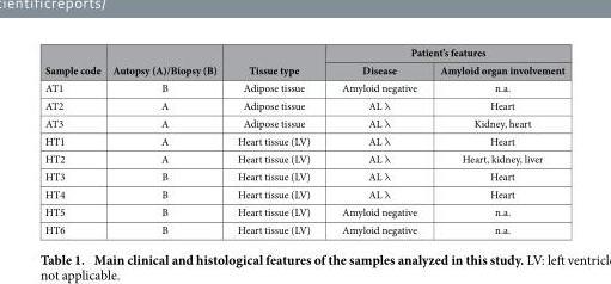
<table><thead><tr><td rowspan="2">Sample code</td><td rowspan="2">Autopsy (A)/Biopsy (B)</td><td rowspan="2">Tissue type</td><td colspan="2">Patient’s features</td></tr><tr><td>Disease</td><td>Amyloid organ involvement</td></tr></thead><tbody><tr><td>AT1</td><td>B</td><td>Adipose tissue</td><td>Amyloid negative</td><td>n.a.</td></tr><tr><td>AT2</td><td>A</td><td>Adipose tissue</td><td>AL λ</td><td>Heart</td></tr><tr><td>AT3</td><td>A</td><td>Adipose tissue</td><td>AL λ</td><td>Kidney, heart</td></tr><tr><td>HT1</td><td>A</td><td>Heart tissue (LV)</td><td>AL λ</td><td>Heart</td></tr><tr><td>HT2</td><td>A</td><td>Heart tissue (LV)</td><td>AL λ</td><td>Heart, kidney, liver</td></tr><tr><td>HT3</td><td>B</td><td>Heart tissue (LV)</td><td>AL λ</td><td>Heart</td></tr><tr><td>HT4</td><td>B</td><td>Heart tissue (LV)</td><td>AL λ</td><td>Heart</td></tr><tr><td>HT5</td><td>B</td><td>Heart tissue (LV)</td><td>Amyloid negative</td><td>n.a.</td></tr><tr><td>HT6</td><td>B</td><td>Heart tissue (LV)</td><td>Amyloid negative</td><td>n.a.</td></tr></tbody></table>